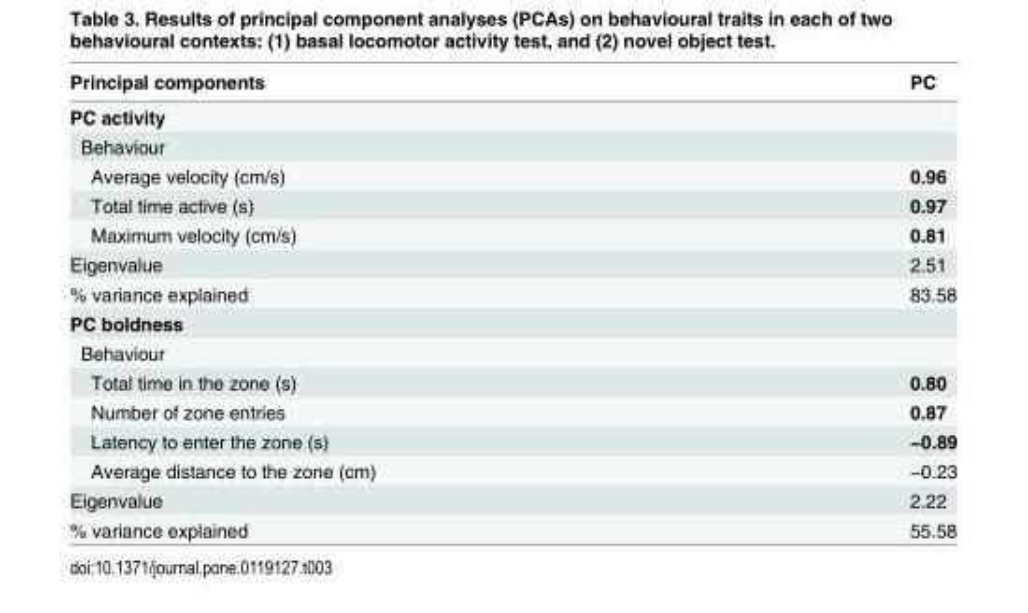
<table><thead><tr><td>Principal components</td><td>PC</td></tr></thead><tbody><tr><td colspan="2">PC activity</td></tr><tr><td colspan="2">Behaviour</td></tr><tr><td>Average velocity (cm/s)</td><td>0.96</td></tr><tr><td>Total time active (s)</td><td>0.97</td></tr><tr><td>Maximum velocity (cm/s)</td><td>0.81</td></tr><tr><td>Eigenvalue</td><td>2.51</td></tr><tr><td>% variance explained</td><td>83.58</td></tr><tr><td colspan="2">PC boldness</td></tr><tr><td colspan="2">Behaviour</td></tr><tr><td>Total time in the zone (s)</td><td>0.80</td></tr><tr><td>Number of zone entries</td><td>0.87</td></tr><tr><td>Latency to enter the zone (s)</td><td>−0.89</td></tr><tr><td>Average distance to the zone (cm)</td><td>−0.23</td></tr><tr><td>Eigenvalue</td><td>2.22</td></tr><tr><td>% variance explained</td><td>55.58</td></tr></tbody></table>